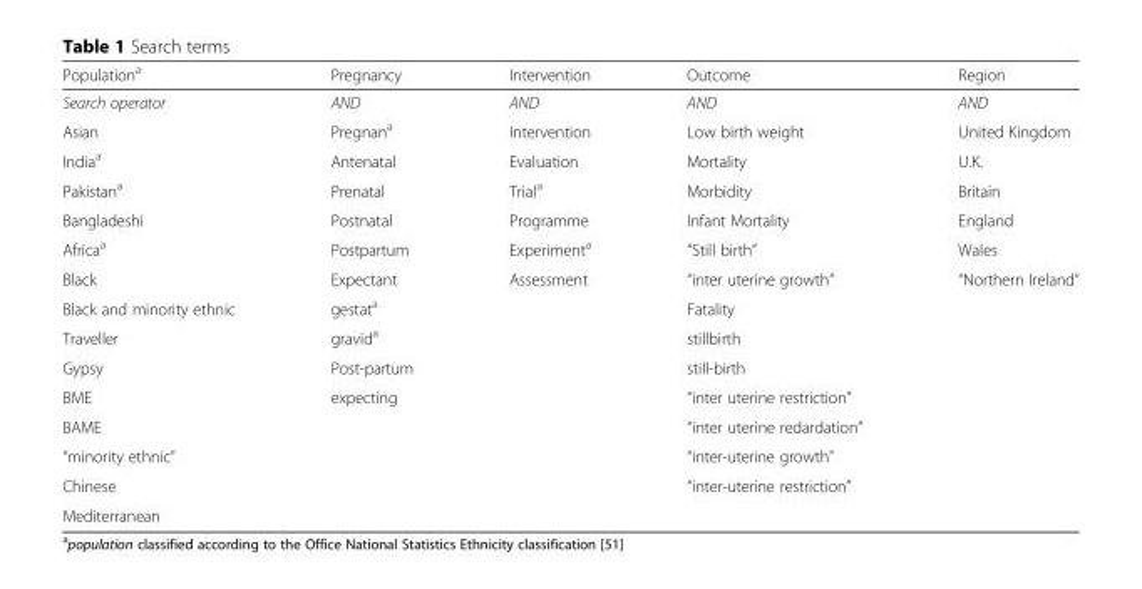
<table><thead><tr><td>Population<sup>a</sup></td><td>Pregnancy</td><td>Intervention</td><td>Outcome</td><td>Region</td></tr></thead><tbody><tr><td>Search operator</td><td>AND</td><td>AND</td><td>AND</td><td>AND</td></tr><tr><td>Asian</td><td>Pregnan<sup>a</sup></td><td>Intervention</td><td>Low birth weight</td><td>United Kingdom</td></tr><tr><td>India<sup>a</sup></td><td>Antenatal</td><td>Evaluation</td><td>Mortality</td><td>U.K.</td></tr><tr><td>Pakistan<sup>a</sup></td><td>Prenatal</td><td>Trial<sup>a</sup></td><td>Morbidity</td><td>Britain</td></tr><tr><td>Bangladeshi</td><td>Postnatal</td><td>Programme</td><td>Infant Mortality</td><td>England</td></tr><tr><td>Africa<sup>a</sup></td><td>Postpartum</td><td>Experiment<sup>a</sup></td><td>“Still birth”</td><td>Wales</td></tr><tr><td>Black</td><td>Expectant</td><td>Assessment</td><td>“inter uterine growth”</td><td>“Northern Ireland”</td></tr><tr><td>Black and minority ethnic</td><td>gestat<sup>a</sup></td><td></td><td>Fatality</td><td></td></tr><tr><td>Traveller</td><td>gravid<sup>a</sup></td><td></td><td>stillbirth</td><td></td></tr><tr><td>Gypsy</td><td>Post-partum</td><td></td><td>still-birth</td><td></td></tr><tr><td>BME</td><td>expecting</td><td></td><td>“inter uterine restriction”</td><td></td></tr><tr><td>BAME</td><td></td><td></td><td>“inter uterine redardation”</td><td></td></tr><tr><td>“minority ethnic”</td><td></td><td></td><td>“inter-uterine growth”</td><td></td></tr><tr><td>Chinese</td><td></td><td></td><td>“inter-uterine restriction”</td><td></td></tr><tr><td>Mediterranean</td><td></td><td></td><td></td><td></td></tr></tbody></table>